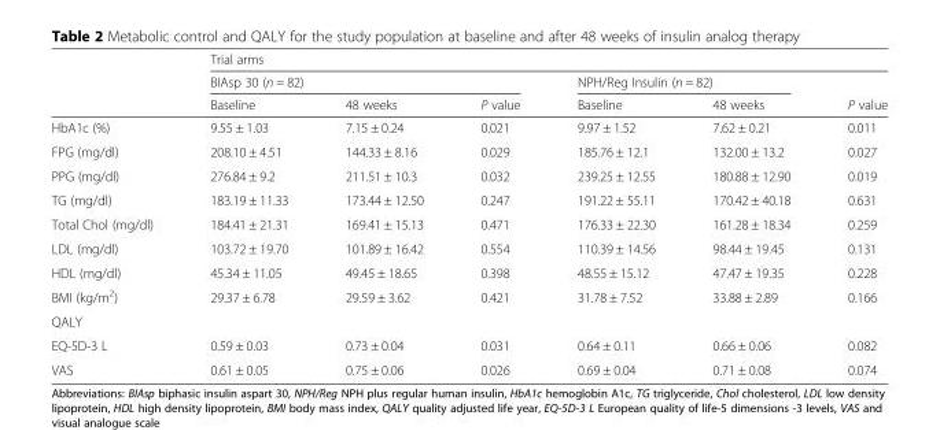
<table><thead><tr><td rowspan="3"></td><td colspan="6">Trial arms</td></tr><tr><td colspan="3">BIAsp 30 (n = 82)</td><td colspan="2">NPH/Reg Insulin (n = 82)</td><td rowspan="2">P value</td></tr><tr><td>Baseline</td><td>48 weeks</td><td>P value</td><td>Baseline</td><td>48 weeks</td></tr></thead><tbody><tr><td>HbA1c (%)</td><td>9.55 ± 1.03</td><td>7.15 ± 0.24</td><td>0.021</td><td>9.97 ± 1.52</td><td>7.62 ± 0.21</td><td>0.011</td></tr><tr><td>FPG (mg/dl)</td><td>208.10 ± 4.51</td><td>144.33 ± 8.16</td><td>0.029</td><td>185.76 ± 12.1</td><td>132.00 ± 13.2</td><td>0.027</td></tr><tr><td>PPG (mg/dl)</td><td>276.84 ± 9.2</td><td>211.51 ± 10.3</td><td>0.032</td><td>239.25 ± 12.55</td><td>180.88 ± 12.90</td><td>0.019</td></tr><tr><td>TG (mg/dl)</td><td>183.19 ± 11.33</td><td>173.44 ± 12.50</td><td>0.247</td><td>191.22 ± 55.11</td><td>170.42 ± 40.18</td><td>0.631</td></tr><tr><td>Total Chol (mg/dl)</td><td>184.41 ± 21.31</td><td>169.41 ± 15.13</td><td>0.471</td><td>176.33 ± 22.30</td><td>161.28 ± 18.34</td><td>0.259</td></tr><tr><td>LDL (mg/dl)</td><td>103.72 ± 19.70</td><td>101.89 ± 16.42</td><td>0.554</td><td>110.39 ± 14.56</td><td>98.44 ± 19.45</td><td>0.131</td></tr><tr><td>HDL (mg/dl)</td><td>45.34 ± 11.05</td><td>49.45 ± 18.65</td><td>0.398</td><td>48.55 ± 15.12</td><td>47.47 ± 19.35</td><td>0.228</td></tr><tr><td>BMI (kg/m<sup>2</sup>)</td><td>29.37 ± 6.78</td><td>29.59 ± 3.62</td><td>0.421</td><td>31.78 ± 7.52</td><td>33.88 ± 2.89</td><td>0.166</td></tr><tr><td colspan="7">QALY</td></tr><tr><td>EQ-5D-3 L</td><td>0.59 ± 0.03</td><td>0.73 ± 0.04</td><td>0.031</td><td>0.64 ± 0.11</td><td>0.66 ± 0.06</td><td>0.082</td></tr><tr><td>VAS</td><td>0.61 ± 0.05</td><td>0.75 ± 0.06</td><td>0.026</td><td>0.69 ± 0.04</td><td>0.71 ± 0.08</td><td>0.074</td></tr></tbody></table>